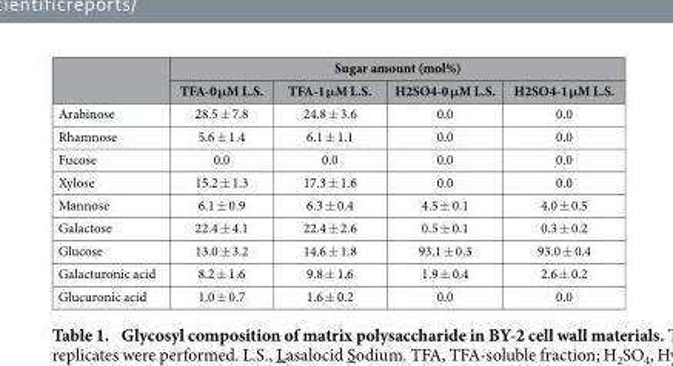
<table><thead><tr><td rowspan="2"></td><td colspan="4">Sugar amount (mol%)</td></tr><tr><td>TFA-0 μM L.S.</td><td>TFA-1 μM L.S.</td><td>H2SO4-0 μM L.S.</td><td>H2SO4-1 μM L.S.</td></tr></thead><tbody><tr><td>Arabinose</td><td>28.5 ± 7.8</td><td>24.8 ± 3.6</td><td>0.0</td><td>0.0</td></tr><tr><td>Rhamnose</td><td>5.6 ± 1.4</td><td>6.1 ± 1.1</td><td>0.0</td><td>0.0</td></tr><tr><td>Fucose</td><td>0.0</td><td>0.0</td><td>0.0</td><td>0.0</td></tr><tr><td>Xylose</td><td>15.2 ± 1.3</td><td>17.3 ± 1.6</td><td>0.0</td><td>0.0</td></tr><tr><td>Mannose</td><td>6.1 ± 0.9</td><td>6.3 ± 0.4</td><td>4.5 ± 0.1</td><td>4.0 ± 0.5</td></tr><tr><td>Galactose</td><td>22.4 ± 4.1</td><td>22.4 ± 2.6</td><td>0.5 ± 0.1</td><td>0.3 ± 0.2</td></tr><tr><td>Glucose</td><td>13.0 ± 3.2</td><td>14.6 ± 1.8</td><td>93.1 ± 0.3</td><td>93.0 ± 0.4</td></tr><tr><td>Galacturonic acid</td><td>8.2 ± 1.6</td><td>9.8 ± 1.6</td><td>1.9 ± 0.4</td><td>2.6 ± 0.2</td></tr><tr><td>Glucuronic acid</td><td>1.0 ± 0.7</td><td>1.6 ± 0.2</td><td>0.0</td><td>0.0</td></tr></tbody></table>